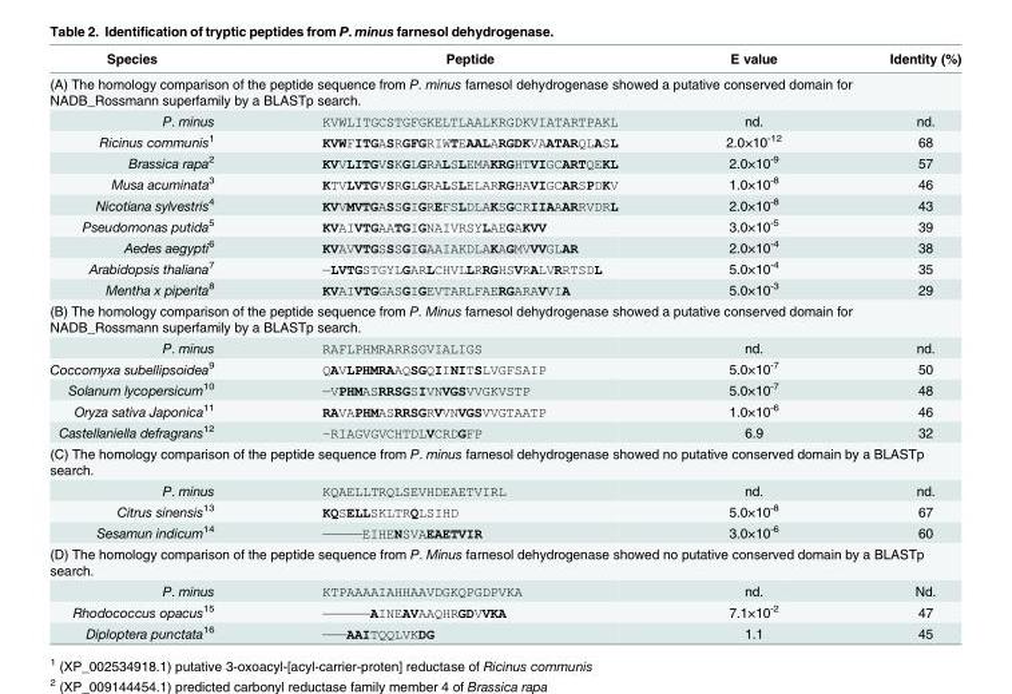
<table><thead><tr><td>Species</td><td>Peptide</td><td>E value</td><td>Identity (%)</td></tr></thead><tbody><tr><td colspan="4">(A) The homology comparison of the peptide sequence from P. minus farnesol dehydrogenase showed a putative conserved domain for NADB_Rossmann superfamily by a BLASTp search.</td></tr><tr><td>P. minus</td><td>KVWLITGCSTGFGKELTLAALKRGDKVIATARTPAKL</td><td>nd.</td><td>nd.</td></tr><tr><td>Ricinus communis<sup>1</sup></td><td>KVWFITGASRGFGRIWTEAALARGDKVAATARQLASL</td><td>2.0×10<sup>-12</sup></td><td>68</td></tr><tr><td>Brassica rapa<sup>2</sup></td><td>KVVLITGVSKGLGRALSLEMAKRGHTVIGCARTQEKL</td><td>2.0×10<sup>-9</sup></td><td>57</td></tr><tr><td>Musa acuminata<sup>3</sup></td><td>KTVLVTGVSRGLGRALSLELARRGHAVIGCARSPDKV</td><td>1.0×10<sup>-8</sup></td><td>46</td></tr><tr><td>Nicotiana sylvestris<sup>4</sup></td><td>KVVMVTGASSGIGREFSLDLAKSGCRIIAAARRVDRL</td><td>2.0×10<sup>-8</sup></td><td>43</td></tr><tr><td>Pseudomonas putida<sup>5</sup></td><td>KVAIVTGAATGIGNAIVRSYLAEGAKVV</td><td>3.0×10<sup>-5</sup></td><td>39</td></tr><tr><td>Aedes aegypti<sup>6</sup></td><td>KVAVVTGSSSGIGAAIAKDLAKAGMVVVGLAR</td><td>2.0×10<sup>-4</sup></td><td>38</td></tr><tr><td>Arabidopsis thaliana<sup>7</sup></td><td>—LVTGSTGYLGARLCHVLLRRGHSVRALVRRTSDL</td><td>5.0×10<sup>-4</sup></td><td>35</td></tr><tr><td>Mentha x piperita<sup>8</sup></td><td>KVAIVTGGASGIGEVTARLFAERGARAVVIA</td><td>5.0×10<sup>-3</sup></td><td>29</td></tr><tr><td colspan="4">(B) The homology comparison of the peptide sequence from P. Minus farnesol dehydrogenase showed a putative conserved domain for NADB_Rossmann superfamily by a BLASTp search.</td></tr><tr><td>P. minus</td><td>RAFLPHMRARRSGVIALIGS</td><td>nd.</td><td>nd.</td></tr><tr><td>Coccomyxa subellipsoidea<sup>9</sup></td><td>QAVLPHMRAAQSGQIINITSLVGFSAIP</td><td>5.0×10<sup>-7</sup></td><td>50</td></tr><tr><td>Solanum lycopersicum<sup>10</sup></td><td>—VPHMASRRSGSIVNVGSVVGKVSTP</td><td>5.0×10<sup>-7</sup></td><td>48</td></tr><tr><td>Oryza sativa Japonica<sup>11</sup></td><td>RAVAPHMASRRSGRVVNVGSVVGTAATP</td><td>1.0×10<sup>-6</sup></td><td>46</td></tr><tr><td>Castellaniella defragrans<sup>12</sup></td><td>–RIAGVGVCHTDLVCRDGFP</td><td>6.9</td><td>32</td></tr><tr><td colspan="4">(C) The homology comparison of the peptide sequence from P. minus farnesol dehydrogenase showed no putative conserved domain by a BLASTp search.</td></tr><tr><td>P. minus</td><td>KQAELLTRQLSEVHDEAETVIRL</td><td>nd.</td><td>nd.</td></tr><tr><td>Citrus sinensis<sup>13</sup></td><td>KQSELLSKLTRQLSIHD</td><td>5.0×10<sup>-8</sup></td><td>67</td></tr><tr><td>Sesamun indicum<sup>14</sup></td><td>—————EIHENSVAEAETVIR</td><td>3.0×10<sup>-6</sup></td><td>60</td></tr><tr><td colspan="4">(D) The homology comparison of the peptide sequence from P. Minus farnesol dehydrogenase showed no putative conserved domain by a BLASTp search.</td></tr><tr><td>P. minus</td><td>KTPAAAAIAHHAAVDGKQPGDPVKA</td><td>nd.</td><td>Nd.</td></tr><tr><td>Rhodococcus opacus<sup>15</sup></td><td>——————AINEAVAAQHRGDVVKA</td><td>7.1×10<sup>-2</sup></td><td>47</td></tr><tr><td>Diploptera punctata<sup>16</sup></td><td>———AAITQQLVKDG</td><td>1.1</td><td>45</td></tr></tbody></table>